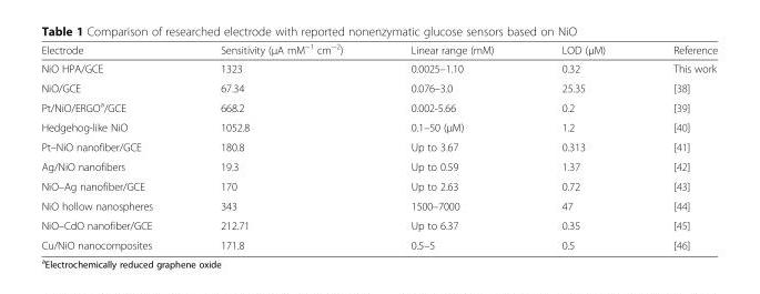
<table><thead><tr><td>Electrode</td><td>Sensitivity (μA mM<sup>−1</sup> cm<sup>−2</sup>)</td><td>Linear range (mM)</td><td>LOD (μM)</td><td>Reference</td></tr></thead><tbody><tr><td>NiO HPA/GCE</td><td>1323</td><td>0.0025–1.10</td><td>0.32</td><td>This work</td></tr><tr><td>NiO/GCE</td><td>67.34</td><td>0.076–3.0</td><td>25.35</td><td>[38]</td></tr><tr><td>Pt/NiO/ERGO<sup>a</sup>/GCE</td><td>668.2</td><td>0.002-5.66</td><td>0.2</td><td>[39]</td></tr><tr><td>Hedgehog-like NiO</td><td>1052.8</td><td>0.1–50 (μM)</td><td>1.2</td><td>[40]</td></tr><tr><td>Pt–NiO nanofiber/GCE</td><td>180.8</td><td>Up to 3.67</td><td>0.313</td><td>[41]</td></tr><tr><td>Ag/NiO nanofibers</td><td>19.3</td><td>Up to 0.59</td><td>1.37</td><td>[42]</td></tr><tr><td>NiO–Ag nanofiber/GCE</td><td>170</td><td>Up to 2.63</td><td>0.72</td><td>[43]</td></tr><tr><td>NiO hollow nanospheres</td><td>343</td><td>1500–7000</td><td>47</td><td>[44]</td></tr><tr><td>NiO–CdO nanofiber/GCE</td><td>212.71</td><td>Up to 6.37</td><td>0.35</td><td>[45]</td></tr><tr><td>Cu/NiO nanocomposites</td><td>171.8</td><td>0.5–5</td><td>0.5</td><td>[46]</td></tr></tbody></table>